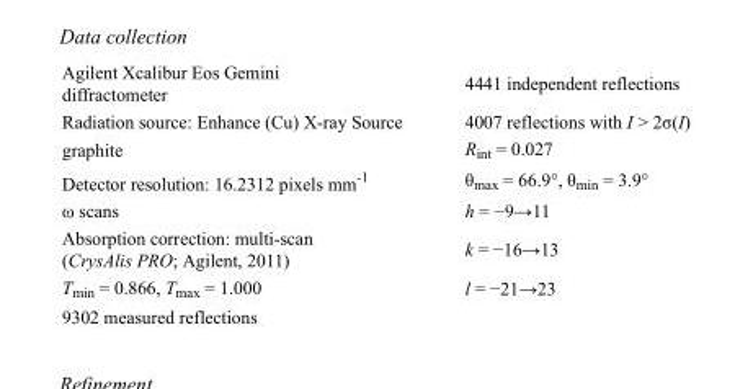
<table><tbody><tr><td>Agilent Xcalibur Eos Gemini diffractometer</td><td>4441 independent reflections</td></tr><tr><td>Radiation source: Enhance (Cu) X-ray Source</td><td>4007 reflections with I &gt; 2σ(I)</td></tr><tr><td>graphite</td><td>R<sub>int</sub> = 0.027</td></tr><tr><td>Detector resolution: 16.2312 pixels mm<sup>-1</sup></td><td>θ<sub>max</sub> = 66.9°, θ<sub>min</sub> = 3.9°</td></tr><tr><td>ω scans</td><td>h = −9→11</td></tr><tr><td>Absorption correction: multi-scan (CrysAlis PRO; Agilent, 2011)</td><td>k = −16→13</td></tr><tr><td>T<sub>min</sub> = 0.866, T<sub>max</sub> = 1.000</td><td>l = −21→23</td></tr><tr><td>9302 measured reflections</td><td></td></tr></tbody></table>